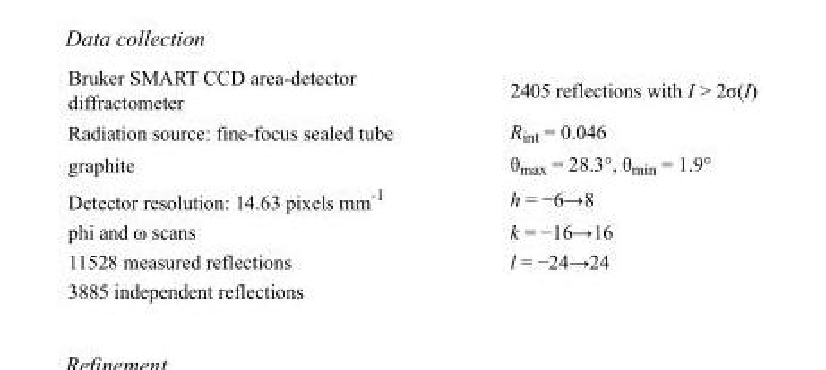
<table><tbody><tr><td>Bruker SMART CCD area-detector diffractometer</td><td>2405 reflections with I &gt; 2σ(I)</td></tr><tr><td>Radiation source: fine-focus sealed tube</td><td>R<sub>int</sub> = 0.046</td></tr><tr><td>graphite</td><td>θ<sub>max</sub> = 28.3°, θ<sub>min</sub> = 1.9°</td></tr><tr><td>Detector resolution: 14.63 pixels mm<sup>-1</sup></td><td>h = −6→8</td></tr><tr><td>phi and ω scans</td><td>k = −16→16</td></tr><tr><td>11528 measured reflections</td><td>l = −24→24</td></tr><tr><td>3885 independent reflections</td><td></td></tr></tbody></table>